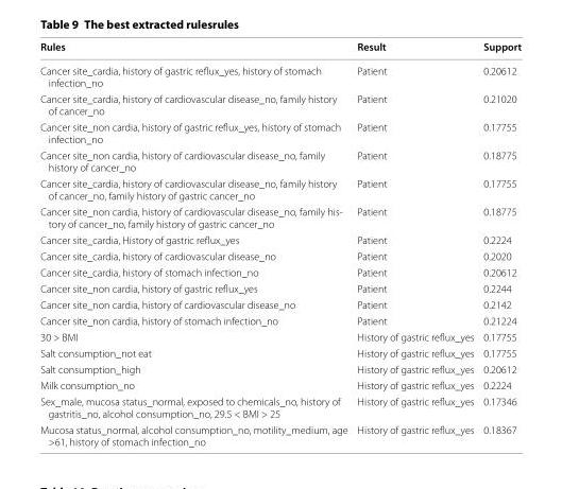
<table><thead><tr><td>Rules</td><td>Result</td><td>Support</td></tr></thead><tbody><tr><td>Cancer site_cardia, history of gastric reflux_yes, history of stomach infection_no</td><td>Patient</td><td>0.20612</td></tr><tr><td>Cancer site_cardia, history of cardiovascular disease_no, family history of cancer_no</td><td>Patient</td><td>0.21020</td></tr><tr><td>Cancer site_non cardia, history of gastric reflux_yes, history of stomach infection_no</td><td>Patient</td><td>0.17755</td></tr><tr><td>Cancer site_non cardia, history of cardiovascular disease_no, family history of cancer_no</td><td>Patient</td><td>0.18775</td></tr><tr><td>Cancer site_cardia, history of cardiovascular disease_no, family history of cancer_no, family history of gastric cancer_no</td><td>Patient</td><td>0.17755</td></tr><tr><td>Cancer site_non cardia, history of cardiovascular disease_no, family his- tory of cancer_no, family history of gastric cancer_no</td><td>Patient</td><td>0.18775</td></tr><tr><td>Cancer site_cardia, History of gastric reflux_yes</td><td>Patient</td><td>0.2224</td></tr><tr><td>Cancer site_cardia, history of cardiovascular disease_no</td><td>Patient</td><td>0.2020</td></tr><tr><td>Cancer site_cardia, history of stomach infection_no</td><td>Patient</td><td>0.20612</td></tr><tr><td>Cancer site_non cardia, history of gastric reflux_yes</td><td>Patient</td><td>0.2244</td></tr><tr><td>Cancer site_non cardia, history of cardiovascular disease_no</td><td>Patient</td><td>0.2142</td></tr><tr><td>Cancer site_non cardia, history of stomach infection_no</td><td>Patient</td><td>0.21224</td></tr><tr><td>30 &gt; BMI</td><td>History of gastric reflux_yes</td><td>0.17755</td></tr><tr><td>Salt consumption_not eat</td><td>History of gastric reflux_yes</td><td>0.17755</td></tr><tr><td>Salt consumption_high</td><td>History of gastric reflux_yes</td><td>0.20612</td></tr><tr><td>Milk consumption_no</td><td>History of gastric reflux_yes</td><td>0.2224</td></tr><tr><td>Sex_male, mucosa status_normal, exposed to chemicals_no, history of gastritis_no, alcohol consumption_no, 29.5 &lt; BMI &gt; 25</td><td>History of gastric reflux_yes</td><td>0.17346</td></tr><tr><td>Mucosa status_normal, alcohol consumption_no, motility_medium, age &gt;61, history of stomach infection_no</td><td>History of gastric reflux_yes</td><td>0.18367</td></tr></tbody></table>